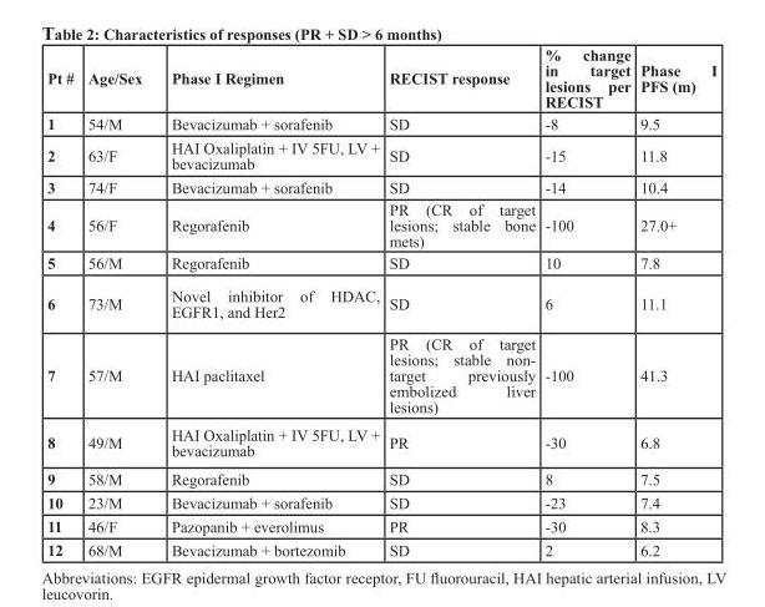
<table><thead><tr><td>Pt #</td><td>Age/Sex</td><td>Phase I Regimen</td><td>RECIST response</td><td>% change in target lesions per RECIST</td><td>Phase I PFS (m)</td></tr></thead><tbody><tr><td>1</td><td>54/M</td><td>Bevacizumab + sorafenib</td><td>SD</td><td>-8</td><td>9.5</td></tr><tr><td>2</td><td>63/F</td><td>HAI Oxaliplatin + IV 5FU, LV + bevacizumab</td><td>SD</td><td>-15</td><td>11.8</td></tr><tr><td>3</td><td>74/F</td><td>Bevacizumab + sorafenib</td><td>SD</td><td>-14</td><td>10.4</td></tr><tr><td>4</td><td>56/F</td><td>Regorafenib</td><td>PR (CR of target lesions; stable bone mets)</td><td>-100</td><td>27.0+</td></tr><tr><td>5</td><td>56/M</td><td>Regorafenib</td><td>SD</td><td>10</td><td>7.8</td></tr><tr><td>6</td><td>73/M</td><td>Novel inhibitor of HDAC, EGFR1, and Her2</td><td>SD</td><td>6</td><td>11.1</td></tr><tr><td>7</td><td>57/M</td><td>HAI paclitaxel</td><td>PR (CR of target lesions; stable non- target previously embolized liver lesions)</td><td>-100</td><td>41.3</td></tr><tr><td>8</td><td>49/M</td><td>HAI Oxaliplatin + IV 5FU, LV + bevacizumab</td><td>PR</td><td>-30</td><td>6.8</td></tr><tr><td>9</td><td>58/M</td><td>Regorafenib</td><td>SD</td><td>8</td><td>7.5</td></tr><tr><td>10</td><td>23/M</td><td>Bevacizumab + sorafenib</td><td>SD</td><td>-23</td><td>7.4</td></tr><tr><td>11</td><td>46/F</td><td>Pazopanib + everolimus</td><td>PR</td><td>-30</td><td>8.3</td></tr><tr><td>12</td><td>68/M</td><td>Bevacizumab + bortezomib</td><td>SD</td><td>2</td><td>6.2</td></tr></tbody></table>